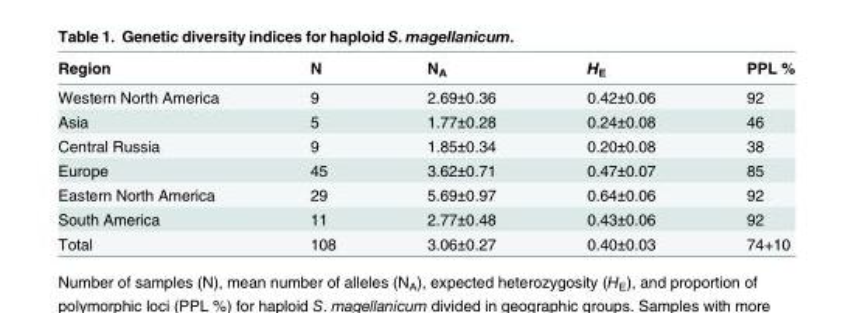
<table><thead><tr><td>Region</td><td>N</td><td>N<sub>A</sub></td><td>H<sub>E</sub></td><td>PPL %</td></tr></thead><tbody><tr><td>Western North America</td><td>9</td><td>2.69±0.36</td><td>0.42±0.06</td><td>92</td></tr><tr><td>Asia</td><td>5</td><td>1.77±0.28</td><td>0.24±0.08</td><td>46</td></tr><tr><td>Central Russia</td><td>9</td><td>1.85±0.34</td><td>0.20±0.08</td><td>38</td></tr><tr><td>Europe</td><td>45</td><td>3.62±0.71</td><td>0.47±0.07</td><td>85</td></tr><tr><td>Eastern North America</td><td>29</td><td>5.69±0.97</td><td>0.64±0.06</td><td>92</td></tr><tr><td>South America</td><td>11</td><td>2.77±0.48</td><td>0.43±0.06</td><td>92</td></tr><tr><td>Total</td><td>108</td><td>3.06±0.27</td><td>0.40±0.03</td><td>74+10</td></tr></tbody></table>